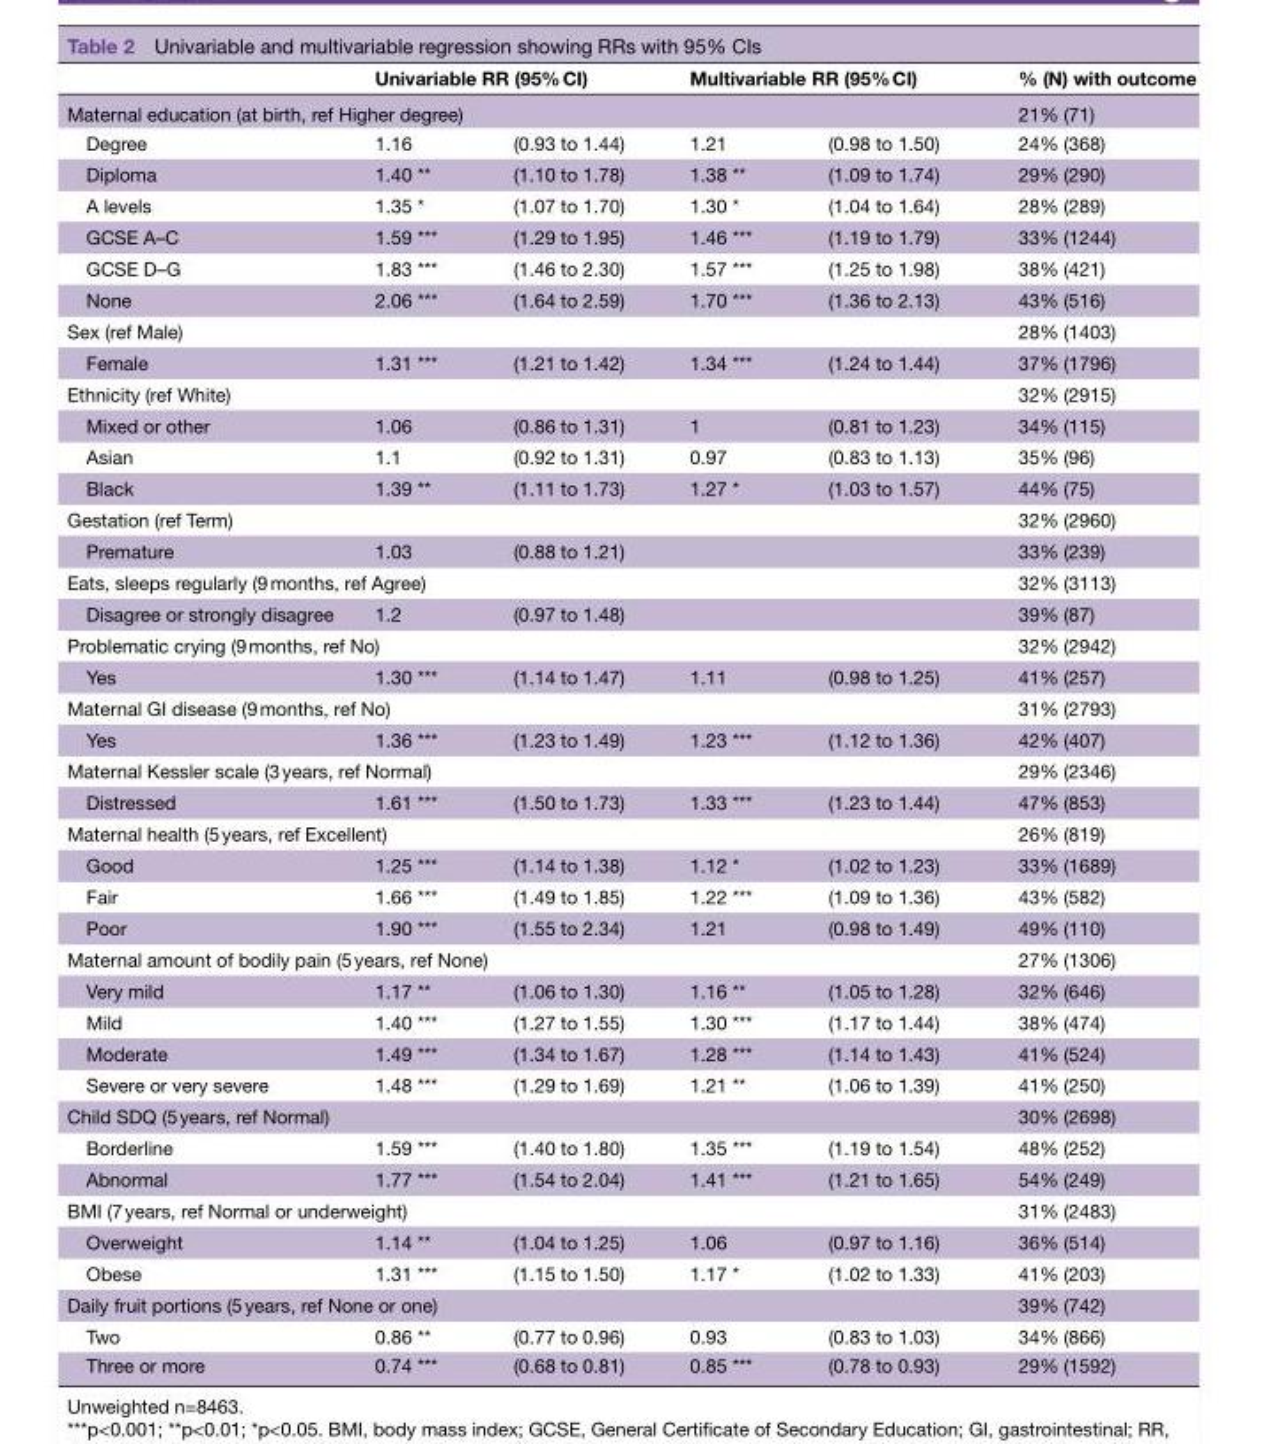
<table><thead><tr><td></td><td colspan="2">Univariable RR (95% CI)</td><td colspan="2">Multivariable RR (95% CI)</td><td rowspan="3">% (N) with outcome 21% (71) 24% (368)</td></tr><tr><td colspan="5">Maternal education (at birth, ref Higher degree)</td></tr><tr><td>Degree</td><td>1.16</td><td>(0.93 to 1.44)</td><td>1.21</td><td>(0.98 to 1.50)</td></tr></thead><tbody><tr><td>Diploma</td><td>1.40 **</td><td>(1.10 to 1.78)</td><td>1.38 **</td><td>(1.09 to 1.74)</td><td>29% (290)</td></tr><tr><td>A levels</td><td>1.35 *</td><td>(1.07 to 1.70)</td><td>1.30 *</td><td>(1.04 to 1.64)</td><td>28% (289)</td></tr><tr><td>GCSE A–C</td><td>1.59 ***</td><td>(1.29 to 1.95)</td><td>1.46 ***</td><td>(1.19 to 1.79)</td><td>33% (1244)</td></tr><tr><td>GCSE D–G</td><td>1.83 ***</td><td>(1.46 to 2.30)</td><td>1.57 ***</td><td>(1.25 to 1.98)</td><td>38% (421)</td></tr><tr><td>None</td><td>2.06 ***</td><td>(1.64 to 2.59)</td><td>1.70 ***</td><td>(1.36 to 2.13)</td><td>43% (516)</td></tr><tr><td>Sex (ref Male)</td><td></td><td></td><td></td><td></td><td>28% (1403)</td></tr><tr><td>Female</td><td>1.31 ***</td><td>(1.21 to 1.42)</td><td>1.34 ***</td><td>(1.24 to 1.44)</td><td>37% (1796)</td></tr><tr><td>Ethnicity (ref White)</td><td></td><td></td><td></td><td></td><td>32% (2915)</td></tr><tr><td>Mixed or other</td><td>1.06</td><td>(0.86 to 1.31)</td><td>1</td><td>(0.81 to 1.23)</td><td>34% (115)</td></tr><tr><td>Asian</td><td>1.1</td><td>(0.92 to 1.31)</td><td>0.97</td><td>(0.83 to 1.13)</td><td>35% (96)</td></tr><tr><td>Black</td><td>1.39 **</td><td>(1.11 to 1.73)</td><td>1.27 *</td><td>(1.03 to 1.57)</td><td>44% (75)</td></tr><tr><td>Gestation (ref Term)</td><td></td><td></td><td></td><td></td><td>32% (2960)</td></tr><tr><td>Premature</td><td>1.03</td><td>(0.88 to 1.21)</td><td></td><td></td><td>33% (239)</td></tr><tr><td colspan="5">Eats, sleeps regularly (9 months, ref Agree)</td><td>32% (3113)</td></tr><tr><td>Disagree or strongly disagree</td><td>1.2</td><td>(0.97 to 1.48)</td><td></td><td></td><td>39% (87)</td></tr><tr><td colspan="3">Problematic crying (9 months, ref No)</td><td></td><td></td><td>32% (2942)</td></tr><tr><td>Yes</td><td>1.30 ***</td><td>(1.14 to 1.47)</td><td>1.11</td><td>(0.98 to 1.25)</td><td>41% (257)</td></tr><tr><td colspan="3">Maternal GI disease (9 months, ref No)</td><td></td><td></td><td>31% (2793)</td></tr><tr><td>Yes</td><td>1.36 ***</td><td>(1.23 to 1.49)</td><td>1.23 ***</td><td>(1.12 to 1.36)</td><td>42% (407)</td></tr><tr><td colspan="5">Maternal Kessler scale (3 years, ref Normal)</td><td>29% (2346)</td></tr><tr><td>Distressed</td><td>1.61 ***</td><td>(1.50 to 1.73)</td><td>1.33 ***</td><td>(1.23 to 1.44)</td><td>47% (853)</td></tr><tr><td colspan="3">Maternal health (5 years, ref Excellent)</td><td></td><td></td><td>26% (819)</td></tr><tr><td>Good</td><td>1.25 ***</td><td>(1.14 to 1.38)</td><td>1.12 *</td><td>(1.02 to 1.23)</td><td>33% (1689)</td></tr><tr><td>Fair</td><td>1.66 ***</td><td>(1.49 to 1.85)</td><td>1.22 ***</td><td>(1.09 to 1.36)</td><td>43% (582)</td></tr><tr><td>Poor</td><td>1.90 ***</td><td>(1.55 to 2.34)</td><td>1.21</td><td>(0.98 to 1.49)</td><td>49% (110)</td></tr><tr><td colspan="5">Maternal amount of bodily pain (5 years, ref None)</td><td>27% (1306)</td></tr><tr><td>Very mild</td><td>1.17 **</td><td>(1.06 to 1.30)</td><td>1.16 **</td><td>(1.05 to 1.28)</td><td>32% (646)</td></tr><tr><td>Mild</td><td>1.40 ***</td><td>(1.27 to 1.55)</td><td>1.30 ***</td><td>(1.17 to 1.44)</td><td>38% (474)</td></tr><tr><td>Moderate</td><td>1.49 ***</td><td>(1.34 to 1.67)</td><td>1.28 ***</td><td>(1.14 to 1.43)</td><td>41% (524)</td></tr><tr><td>Severe or very severe</td><td>1.48 ***</td><td>(1.29 to 1.69)</td><td>1.21 **</td><td>(1.06 to 1.39)</td><td>41% (250)</td></tr><tr><td colspan="5">Child SDQ (5 years, ref Normal)</td><td>30% (2698)</td></tr><tr><td>Borderline</td><td>1.59 ***</td><td>(1.40 to 1.80)</td><td>1.35 ***</td><td>(1.19 to 1.54)</td><td>48% (252)</td></tr><tr><td>Abnormal</td><td>1.77 ***</td><td>(1.54 to 2.04)</td><td>1.41 ***</td><td>(1.21 to 1.65)</td><td>54% (249)</td></tr><tr><td colspan="3">BMI (7 years, ref Normal or underweight)</td><td></td><td></td><td>31% (2483)</td></tr><tr><td>Overweight</td><td>1.14 **</td><td>(1.04 to 1.25)</td><td>1.06</td><td>(0.97 to 1.16)</td><td>36% (514)</td></tr><tr><td>Obese</td><td>1.31 ***</td><td>(1.15 to 1.50)</td><td>1.17 *</td><td>(1.02 to 1.33)</td><td>41% (203)</td></tr><tr><td colspan="5">Daily fruit portions (5 years, ref None or one)</td><td>39% (742)</td></tr><tr><td>Two</td><td>0.86 **</td><td>(0.77 to 0.96)</td><td>0.93</td><td>(0.83 to 1.03)</td><td>34% (866)</td></tr><tr><td>Three or more</td><td>0.74 ***</td><td>(0.68 to 0.81)</td><td>0.85 ***</td><td>(0.78 to 0.93)</td><td>29% (1592)</td></tr></tbody></table>